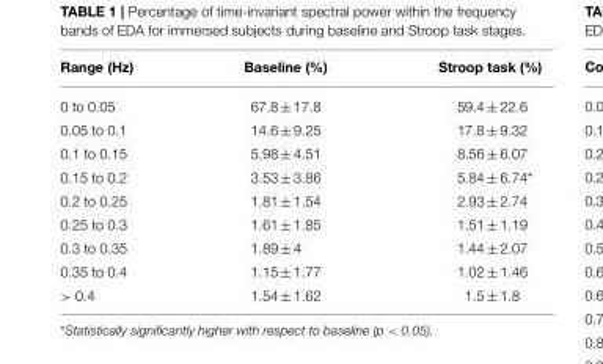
<table><thead><tr><td>Range (Hz)</td><td>Baseline (%)</td><td>Stroop task (%)</td></tr></thead><tbody><tr><td>0 to 0.05</td><td>67.8 ± 17.8</td><td>59.4 ± 22.6</td></tr><tr><td>0.05 to 0.1</td><td>14.6 ± 9.25</td><td>17.8 ± 9.32</td></tr><tr><td>0.1 to 0.15</td><td>5.98 ± 4.51</td><td>8.56 ± 6.07</td></tr><tr><td>0.15 to 0.2</td><td>3.53 ± 3.86</td><td>5.84 ± 6.74*</td></tr><tr><td>0.2 to 0.25</td><td>1.81 ± 1.54</td><td>2.93 ± 2.74</td></tr><tr><td>0.25 to 0.3</td><td>1.61 ± 1.85</td><td>1.51 ± 1.19</td></tr><tr><td>0.3 to 0.35</td><td>1.89 ± 4</td><td>1.44 ± 2.07</td></tr><tr><td>0.35 to 0.4</td><td>1.15 ± 1.77</td><td>1.02 ± 1.46</td></tr><tr><td>&gt; 0.4</td><td>1.54 ± 1.62</td><td>1.5 ± 1.8</td></tr></tbody></table>